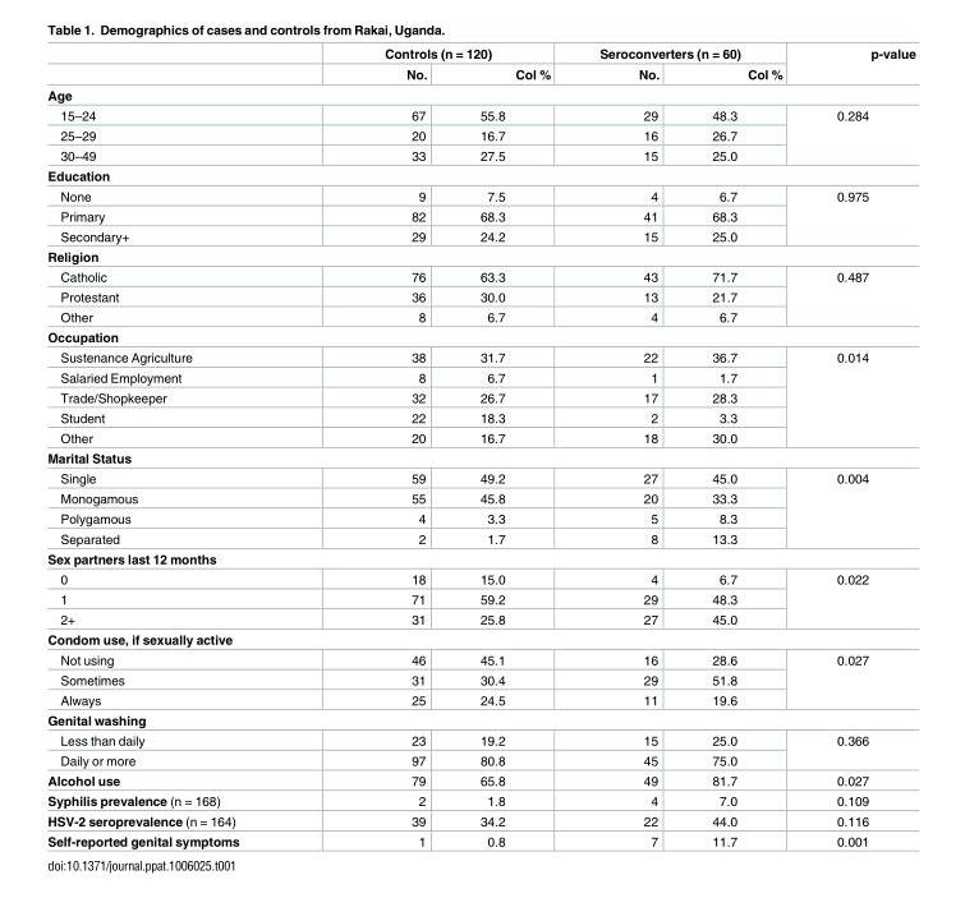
<table><thead><tr><td rowspan="2"></td><td colspan="2">Controls (n = 120)</td><td colspan="2">Seroconverters (n = 60)</td><td rowspan="2">p-value</td></tr><tr><td>No.</td><td>Col %</td><td>No.</td><td>Col %</td></tr></thead><tbody><tr><td colspan="6">Age</td></tr><tr><td>15–24</td><td>67</td><td>55.8</td><td>29</td><td>48.3</td><td rowspan="3">0.284</td></tr><tr><td>25–29</td><td>20</td><td>16.7</td><td>16</td><td>26.7</td></tr><tr><td>30–49</td><td>33</td><td>27.5</td><td>15</td><td>25.0</td></tr><tr><td colspan="6">Education</td></tr><tr><td>None</td><td>9</td><td>7.5</td><td>4</td><td>6.7</td><td rowspan="3">0.975</td></tr><tr><td>Primary</td><td>82</td><td>68.3</td><td>41</td><td>68.3</td></tr><tr><td>Secondary+</td><td>29</td><td>24.2</td><td>15</td><td>25.0</td></tr><tr><td colspan="6">Religion</td></tr><tr><td>Catholic</td><td>76</td><td>63.3</td><td>43</td><td>71.7</td><td rowspan="3">0.487</td></tr><tr><td>Protestant</td><td>36</td><td>30.0</td><td>13</td><td>21.7</td></tr><tr><td>Other</td><td>8</td><td>6.7</td><td>4</td><td>6.7</td></tr><tr><td colspan="6">Occupation</td></tr><tr><td>Sustenance Agriculture</td><td>38</td><td>31.7</td><td>22</td><td>36.7</td><td rowspan="5">0.014</td></tr><tr><td>Salaried Employment</td><td>8</td><td>6.7</td><td>1</td><td>1.7</td></tr><tr><td>Trade/Shopkeeper</td><td>32</td><td>26.7</td><td>17</td><td>28.3</td></tr><tr><td>Student</td><td>22</td><td>18.3</td><td>2</td><td>3.3</td></tr><tr><td>Other</td><td>20</td><td>16.7</td><td>18</td><td>30.0</td></tr><tr><td colspan="6">Marital Status</td></tr><tr><td>Single</td><td>59</td><td>49.2</td><td>27</td><td>45.0</td><td rowspan="4">0.004</td></tr><tr><td>Monogamous</td><td>55</td><td>45.8</td><td>20</td><td>33.3</td></tr><tr><td>Polygamous</td><td>4</td><td>3.3</td><td>5</td><td>8.3</td></tr><tr><td>Separated</td><td>2</td><td>1.7</td><td>8</td><td>13.3</td></tr><tr><td colspan="6">Sex partners last 12 months</td></tr><tr><td>0</td><td>18</td><td>15.0</td><td>4</td><td>6.7</td><td rowspan="3">0.022</td></tr><tr><td>1</td><td>71</td><td>59.2</td><td>29</td><td>48.3</td></tr><tr><td>2+</td><td>31</td><td>25.8</td><td>27</td><td>45.0</td></tr><tr><td colspan="6">Condom use, if sexually active</td></tr><tr><td>Not using</td><td>46</td><td>45.1</td><td>16</td><td>28.6</td><td rowspan="3">0.027</td></tr><tr><td>Sometimes</td><td>31</td><td>30.4</td><td>29</td><td>51.8</td></tr><tr><td>Always</td><td>25</td><td>24.5</td><td>11</td><td>19.6</td></tr><tr><td colspan="6">Genital washing</td></tr><tr><td>Less than daily</td><td>23</td><td>19.2</td><td>15</td><td>25.0</td><td rowspan="2">0.366</td></tr><tr><td>Daily or more</td><td>97</td><td>80.8</td><td>45</td><td>75.0</td></tr><tr><td>Alcohol use</td><td>79</td><td>65.8</td><td>49</td><td>81.7</td><td>0.027</td></tr><tr><td>Syphilis prevalence (n = 168)</td><td>2</td><td>1.8</td><td>4</td><td>7.0</td><td>0.109</td></tr><tr><td>HSV-2 seroprevalence (n = 164)</td><td>39</td><td>34.2</td><td>22</td><td>44.0</td><td>0.116</td></tr><tr><td>Self-reported genital symptoms</td><td>1</td><td>0.8</td><td>7</td><td>11.7</td><td>0.001</td></tr></tbody></table>